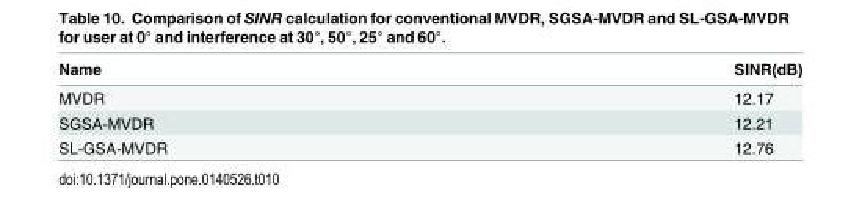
<table><thead><tr><td>Name</td><td>SINR(dB)</td></tr></thead><tbody><tr><td>MVDR</td><td>12.17</td></tr><tr><td>SGSA-MVDR</td><td>12.21</td></tr><tr><td>SL-GSA-MVDR</td><td>12.76</td></tr></tbody></table>